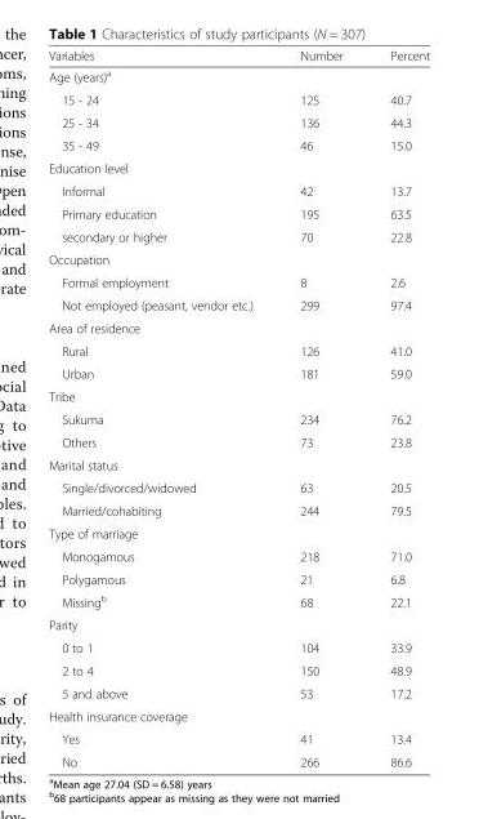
<table><thead><tr><td>Variables</td><td>Number</td><td>Percent</td></tr></thead><tbody><tr><td colspan="3">Age (years)<sup>a</sup></td></tr><tr><td>15 - 24</td><td>125</td><td>40.7</td></tr><tr><td>25 - 34</td><td>136</td><td>44.3</td></tr><tr><td>35 - 49</td><td>46</td><td>15.0</td></tr><tr><td colspan="3">Education level</td></tr><tr><td>Informal</td><td>42</td><td>13.7</td></tr><tr><td>Primary education</td><td>195</td><td>63.5</td></tr><tr><td>secondary or higher</td><td>70</td><td>22.8</td></tr><tr><td colspan="3">Occupation</td></tr><tr><td>Formal employment</td><td>8</td><td>2.6</td></tr><tr><td>Not employed (peasant, vendor etc.)</td><td>299</td><td>97.4</td></tr><tr><td colspan="3">Area of residence</td></tr><tr><td>Rural</td><td>126</td><td>41.0</td></tr><tr><td>Urban</td><td>181</td><td>59.0</td></tr><tr><td colspan="3">Tribe</td></tr><tr><td>Sukuma</td><td>234</td><td>76.2</td></tr><tr><td>Others</td><td>73</td><td>23.8</td></tr><tr><td colspan="3">Marital status</td></tr><tr><td>Single/divorced/widowed</td><td>63</td><td>20.5</td></tr><tr><td>Married/cohabiting</td><td>244</td><td>79.5</td></tr><tr><td colspan="3">Type of marriage</td></tr><tr><td>Monogamous</td><td>218</td><td>71.0</td></tr><tr><td>Polygamous</td><td>21</td><td>6.8</td></tr><tr><td>Missing<sup>b</sup></td><td>68</td><td>22.1</td></tr><tr><td colspan="3">Parity</td></tr><tr><td>0 to 1</td><td>104</td><td>33.9</td></tr><tr><td>2 to 4</td><td>150</td><td>48.9</td></tr><tr><td>5 and above</td><td>53</td><td>17.2</td></tr><tr><td colspan="3">Health insurance coverage</td></tr><tr><td>Yes</td><td>41</td><td>13.4</td></tr><tr><td>No</td><td>266</td><td>86.6</td></tr></tbody></table>